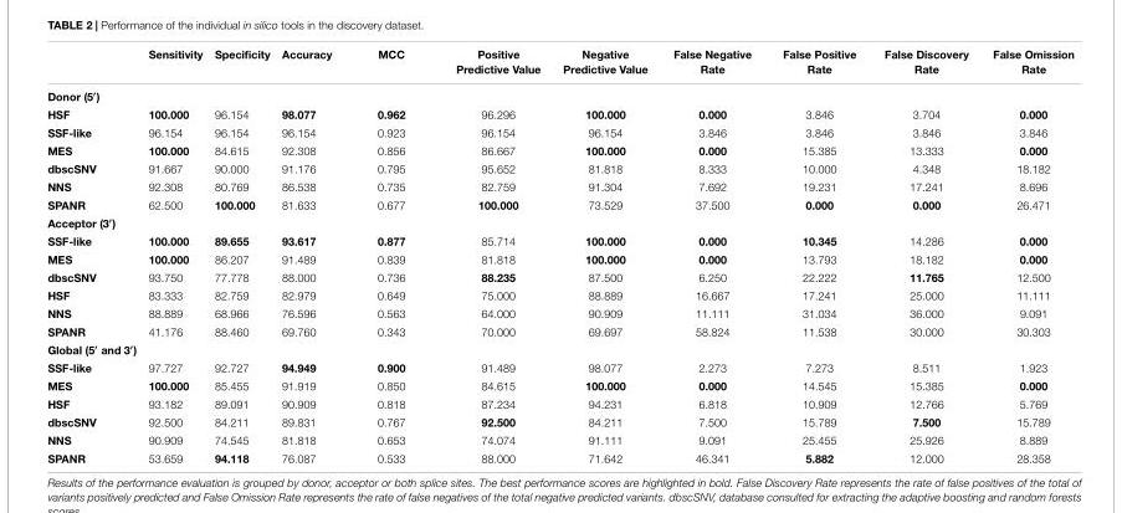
<table><thead><tr><td></td><td>Sensitivity</td><td>Specificity</td><td>Accuracy</td><td>MCC</td><td>Positive Predictive Value</td><td>Negative Predictive Value</td><td>False Negative Rate</td><td>False Positive Rate</td><td>False Discovery Rate</td><td>False Omission Rate</td></tr></thead><tbody><tr><td colspan="11">Donor (5′)</td></tr><tr><td>HSF</td><td>100.000</td><td>96.154</td><td>98.077</td><td>0.962</td><td>96.296</td><td>100.000</td><td>0.000</td><td>3.846</td><td>3.704</td><td>0.000</td></tr><tr><td>SSF-like</td><td>96.154</td><td>96.154</td><td>96.154</td><td>0.923</td><td>96.154</td><td>96.154</td><td>3.846</td><td>3.846</td><td>3.846</td><td>3.846</td></tr><tr><td>MES</td><td>100.000</td><td>84.615</td><td>92.308</td><td>0.856</td><td>86.667</td><td>100.000</td><td>0.000</td><td>15.385</td><td>13.333</td><td>0.000</td></tr><tr><td>dbscSNV</td><td>91.667</td><td>90.000</td><td>91.176</td><td>0.795</td><td>95.652</td><td>81.818</td><td>8.333</td><td>10.000</td><td>4.348</td><td>18.182</td></tr><tr><td>NNS</td><td>92.308</td><td>80.769</td><td>86.538</td><td>0.735</td><td>82.759</td><td>91.304</td><td>7.692</td><td>19.231</td><td>17.241</td><td>8.696</td></tr><tr><td>SPANR</td><td>62.500</td><td>100.000</td><td>81.633</td><td>0.677</td><td>100.000</td><td>73.529</td><td>37.500</td><td>0.000</td><td>0.000</td><td>26.471</td></tr><tr><td colspan="11">Acceptor (3′)</td></tr><tr><td>SSF-like</td><td>100.000</td><td>89.655</td><td>93.617</td><td>0.877</td><td>85.714</td><td>100.000</td><td>0.000</td><td>10.345</td><td>14.286</td><td>0.000</td></tr><tr><td>MES</td><td>100.000</td><td>86.207</td><td>91.489</td><td>0.839</td><td>81.818</td><td>100.000</td><td>0.000</td><td>13.793</td><td>18.182</td><td>0.000</td></tr><tr><td>dbscSNV</td><td>93.750</td><td>77.778</td><td>88.000</td><td>0.736</td><td>88.235</td><td>87.500</td><td>6.250</td><td>22.222</td><td>11.765</td><td>12.500</td></tr><tr><td>HSF</td><td>83.333</td><td>82.759</td><td>82.979</td><td>0.649</td><td>75.000</td><td>88.889</td><td>16.667</td><td>17.241</td><td>25.000</td><td>11.111</td></tr><tr><td>NNS</td><td>88.889</td><td>68.966</td><td>76.596</td><td>0.563</td><td>64.000</td><td>90.909</td><td>11.111</td><td>31.034</td><td>36.000</td><td>9.091</td></tr><tr><td>SPANR</td><td>41.176</td><td>88.460</td><td>69.760</td><td>0.343</td><td>70.000</td><td>69.697</td><td>58.824</td><td>11.538</td><td>30.000</td><td>30.303</td></tr><tr><td colspan="11">Global (5′ and 3′)</td></tr><tr><td>SSF-like</td><td>97.727</td><td>92.727</td><td>94.949</td><td>0.900</td><td>91.489</td><td>98.077</td><td>2.273</td><td>7.273</td><td>8.511</td><td>1.923</td></tr><tr><td>MES</td><td>100.000</td><td>85.455</td><td>91.919</td><td>0.850</td><td>84.615</td><td>100.000</td><td>0.000</td><td>14.545</td><td>15.385</td><td>0.000</td></tr><tr><td>HSF</td><td>93.182</td><td>89.091</td><td>90.909</td><td>0.818</td><td>87.234</td><td>94.231</td><td>6.818</td><td>10.909</td><td>12.766</td><td>5.769</td></tr><tr><td>dbscSNV</td><td>92.500</td><td>84.211</td><td>89.831</td><td>0.767</td><td>92.500</td><td>84.211</td><td>7.500</td><td>15.789</td><td>7.500</td><td>15.789</td></tr><tr><td>NNS</td><td>90.909</td><td>74.545</td><td>81.818</td><td>0.653</td><td>74.074</td><td>91.111</td><td>9.091</td><td>25.455</td><td>25.926</td><td>8.889</td></tr><tr><td>SPANR</td><td>53.659</td><td>94.118</td><td>76.087</td><td>0.533</td><td>88.000</td><td>71.642</td><td>46.341</td><td>5.882</td><td>12.000</td><td>28.358</td></tr></tbody></table>